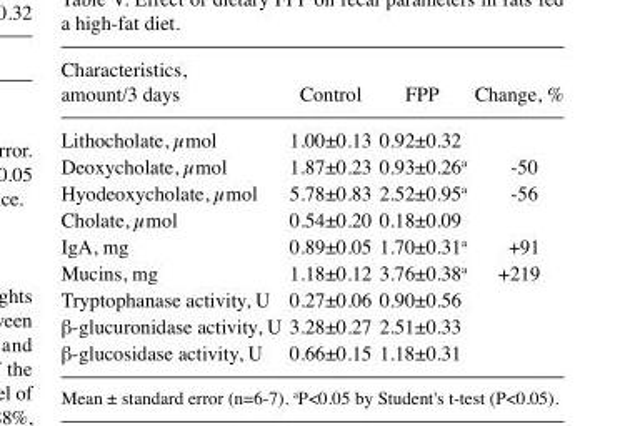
<table><thead><tr><td>Characteristics, amount/3 days</td><td>Control</td><td>FPP</td><td>Change, %</td></tr></thead><tbody><tr><td>Lithocholate, µmol</td><td>1.00±0.13</td><td>0.92±0.32</td><td></td></tr><tr><td>Deoxycholate, µmol</td><td>1.87±0.23</td><td>0.93±0.26<sup>a</sup></td><td>-50</td></tr><tr><td>Hyodeoxycholate, µmol</td><td>5.78±0.83</td><td>2.52±0.95<sup>a</sup></td><td>-56</td></tr><tr><td>Cholate, µmol</td><td>0.54±0.20</td><td>0.18±0.09</td><td></td></tr><tr><td>IgA, mg</td><td>0.89±0.05</td><td>1.70±0.31<sup>a</sup></td><td>+91</td></tr><tr><td>Mucins, mg</td><td>1.18±0.12</td><td>3.76±0.38<sup>a</sup></td><td>+219</td></tr><tr><td>Tryptophanase activity, U</td><td>0.27±0.06</td><td>0.90±0.56</td><td></td></tr><tr><td>β-glucuronidase activity, U</td><td>3.28±0.27</td><td>2.51±0.33</td><td></td></tr><tr><td>β-glucosidase activity, U</td><td>0.66±0.15</td><td>1.18±0.31</td><td></td></tr></tbody></table>